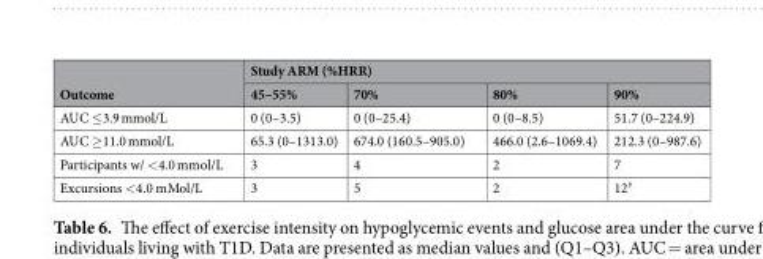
<table><thead><tr><td rowspan="2">Outcome</td><td colspan="4">Study ARM (%HRR)</td></tr><tr><td>45–55%</td><td>70%</td><td>80%</td><td>90%</td></tr></thead><tbody><tr><td>AUC ≤3.9 mmol/L</td><td>0 (0–3.5)</td><td>0 (0–25.4)</td><td>0 (0–8.5)</td><td>51.7 (0–224.9)</td></tr><tr><td>AUC ≥11.0 mmol/L</td><td>65.3 (0–1313.0)</td><td>674.0 (160.5–905.0)</td><td>466.0 (2.6–1069.4)</td><td>212.3 (0–987.6)</td></tr><tr><td>Participants w/ &lt;4.0 mmol/L</td><td>3</td><td>4</td><td>2</td><td>7</td></tr><tr><td>Excursions &lt;4.0 mMol/L</td><td>3</td><td>5</td><td>2</td><td>12<sup>†</sup></td></tr></tbody></table>